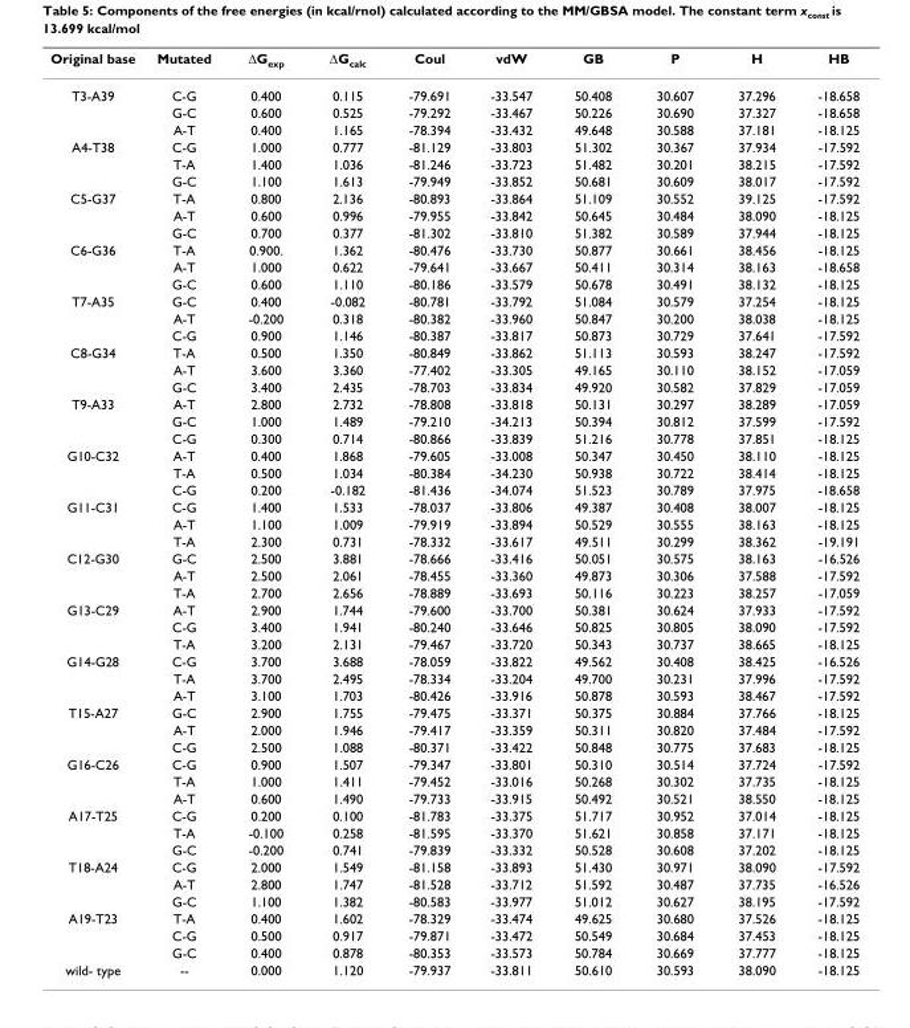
<table><thead><tr><td>Original base</td><td>Mutated</td><td>ΔG<sub>exp</sub></td><td>ΔG<sub>calc</sub></td><td>Coul</td><td>vdW</td><td>GB</td><td>P</td><td>H</td><td>HB</td></tr></thead><tbody><tr><td rowspan="3">T3-A39</td><td>C-G</td><td>0.400</td><td>0.115</td><td>-79.691</td><td>-33.547</td><td>50.408</td><td>30.607</td><td>37.296</td><td>-18.658</td></tr><tr><td>G-C</td><td>0.600</td><td>0.525</td><td>-79.292</td><td>-33.467</td><td>50.226</td><td>30.690</td><td>37.327</td><td>-18.658</td></tr><tr><td>A-T</td><td>0.400</td><td>1.165</td><td>-78.394</td><td>-33.432</td><td>49.648</td><td>30.588</td><td>37.181</td><td>-18.125</td></tr><tr><td rowspan="3">A4-T38</td><td>C-G</td><td>1.000</td><td>0.777</td><td>-81.129</td><td>-33.803</td><td>51.302</td><td>30.367</td><td>37.934</td><td>-17.592</td></tr><tr><td>T-A</td><td>1.400</td><td>1.036</td><td>-81.246</td><td>-33.723</td><td>51.482</td><td>30.201</td><td>38.215</td><td>-17.592</td></tr><tr><td>G-C</td><td>1.100</td><td>1.613</td><td>-79.949</td><td>-33.852</td><td>50.681</td><td>30.609</td><td>38.017</td><td>-17.592</td></tr><tr><td rowspan="3">C5-G37</td><td>T-A</td><td>0.800</td><td>2.136</td><td>-80.893</td><td>-33.864</td><td>51.109</td><td>30.552</td><td>39.125</td><td>-17.592</td></tr><tr><td>A-T</td><td>0.600</td><td>0.996</td><td>-79.955</td><td>-33.842</td><td>50.645</td><td>30.484</td><td>38.090</td><td>-18.125</td></tr><tr><td>G-C</td><td>0.700</td><td>0.377</td><td>-81.302</td><td>-33.810</td><td>51.382</td><td>30.589</td><td>37.944</td><td>-18.125</td></tr><tr><td rowspan="3">C6-G36</td><td>T-A</td><td>0.900.</td><td>1.362</td><td>-80.476</td><td>-33.730</td><td>50.877</td><td>30.661</td><td>38.456</td><td>-18.125</td></tr><tr><td>A-T</td><td>1.000</td><td>0.622</td><td>-79.641</td><td>-33.667</td><td>50.411</td><td>30.314</td><td>38.163</td><td>-18.658</td></tr><tr><td>G-C</td><td>0.600</td><td>1.110</td><td>-80.186</td><td>-33.579</td><td>50.678</td><td>30.491</td><td>38.132</td><td>-18.125</td></tr><tr><td rowspan="3">T7-A35</td><td>G-C</td><td>0.400</td><td>-0.082</td><td>-80.781</td><td>-33.792</td><td>51.084</td><td>30.579</td><td>37.254</td><td>-18.125</td></tr><tr><td>A-T</td><td>-0.200</td><td>0.318</td><td>-80.382</td><td>-33.960</td><td>50.847</td><td>30.200</td><td>38.038</td><td>-18.125</td></tr><tr><td>C-G</td><td>0.900</td><td>1.146</td><td>-80.387</td><td>-33.817</td><td>50.873</td><td>30.729</td><td>37.641</td><td>-17.592</td></tr><tr><td rowspan="3">C8-G34</td><td>T-A</td><td>0.500</td><td>1.350</td><td>-80.849</td><td>-33.862</td><td>51.113</td><td>30.593</td><td>38.247</td><td>-17.592</td></tr><tr><td>A-T</td><td>3.600</td><td>3.360</td><td>-77.402</td><td>-33.305</td><td>49.165</td><td>30.110</td><td>38.152</td><td>-17.059</td></tr><tr><td>G-C</td><td>3.400</td><td>2.435</td><td>-78.703</td><td>-33.834</td><td>49.920</td><td>30.582</td><td>37.829</td><td>-17.059</td></tr><tr><td rowspan="3">T9-A33</td><td>A-T</td><td>2.800</td><td>2.732</td><td>-78.808</td><td>-33.818</td><td>50.131</td><td>30.297</td><td>38.289</td><td>-17.059</td></tr><tr><td>G-C</td><td>1.000</td><td>1.489</td><td>-79.210</td><td>-34.213</td><td>50.394</td><td>30.812</td><td>37.599</td><td>-17.592</td></tr><tr><td>C-G</td><td>0.300</td><td>0.714</td><td>-80.866</td><td>-33.839</td><td>51.216</td><td>30.778</td><td>37.851</td><td>-18.125</td></tr><tr><td rowspan="3">G10-C32</td><td>A-T</td><td>0.400</td><td>1.868</td><td>-79.605</td><td>-33.008</td><td>50.347</td><td>30.450</td><td>38.110</td><td>-18.125</td></tr><tr><td>T-A</td><td>0.500</td><td>1.034</td><td>-80.384</td><td>-34.230</td><td>50.938</td><td>30.722</td><td>38.414</td><td>-18.125</td></tr><tr><td>C-G</td><td>0.200</td><td>-0.182</td><td>-81.436</td><td>-34.074</td><td>51.523</td><td>30.789</td><td>37.975</td><td>-18.658</td></tr><tr><td rowspan="3">G11-C31</td><td>C-G</td><td>1.400</td><td>1.533</td><td>-78.037</td><td>-33.806</td><td>49.387</td><td>30.408</td><td>38.007</td><td>-18.125</td></tr><tr><td>A-T</td><td>1.100</td><td>1.009</td><td>-79.919</td><td>-33.894</td><td>50.529</td><td>30.555</td><td>38.163</td><td>-18.125</td></tr><tr><td>T-A</td><td>2.300</td><td>0.731</td><td>-78.332</td><td>-33.617</td><td>49.511</td><td>30.299</td><td>38.362</td><td>-19.191</td></tr><tr><td rowspan="3">C12-G30</td><td>G-C</td><td>2.500</td><td>3.881</td><td>-78.666</td><td>-33.416</td><td>50.051</td><td>30.575</td><td>38.163</td><td>-16.526</td></tr><tr><td>A-T</td><td>2.500</td><td>2.061</td><td>-78.455</td><td>-33.360</td><td>49.873</td><td>30.306</td><td>37.588</td><td>-17.592</td></tr><tr><td>T-A</td><td>2.700</td><td>2.656</td><td>-78.889</td><td>-33.693</td><td>50.116</td><td>30.223</td><td>38.257</td><td>-17.059</td></tr><tr><td rowspan="3">G13-C29</td><td>A-T</td><td>2.900</td><td>1.744</td><td>-79.600</td><td>-33.700</td><td>50.381</td><td>30.624</td><td>37.933</td><td>-17.592</td></tr><tr><td>C-G</td><td>3.400</td><td>1.941</td><td>-80.240</td><td>-33.646</td><td>50.825</td><td>30.805</td><td>38.090</td><td>-17.592</td></tr><tr><td>T-A</td><td>3.200</td><td>2.131</td><td>-79.467</td><td>-33.720</td><td>50.343</td><td>30.737</td><td>38.665</td><td>-18.125</td></tr><tr><td rowspan="3">G14-G28</td><td>C-G</td><td>3.700</td><td>3.688</td><td>-78.059</td><td>-33.822</td><td>49.562</td><td>30.408</td><td>38.425</td><td>-16.526</td></tr><tr><td>T-A</td><td>3.700</td><td>2.495</td><td>-78.334</td><td>-33.204</td><td>49.700</td><td>30.231</td><td>37.996</td><td>-17.592</td></tr><tr><td>A-T</td><td>3.100</td><td>1.703</td><td>-80.426</td><td>-33.916</td><td>50.878</td><td>30.593</td><td>38.467</td><td>-17.592</td></tr><tr><td rowspan="3">T15-A27</td><td>G-C</td><td>2.900</td><td>1.755</td><td>-79.475</td><td>-33.371</td><td>50.375</td><td>30.884</td><td>37.766</td><td>-18.125</td></tr><tr><td>A-T</td><td>2.000</td><td>1.946</td><td>-79.417</td><td>-33.359</td><td>50.311</td><td>30.820</td><td>37.484</td><td>-17.592</td></tr><tr><td>C-G</td><td>2.500</td><td>1.088</td><td>-80.371</td><td>-33.422</td><td>50.848</td><td>30.775</td><td>37.683</td><td>-18.125</td></tr><tr><td rowspan="3">G16-C26</td><td>C-G</td><td>0.900</td><td>1.507</td><td>-79.347</td><td>-33.801</td><td>50.310</td><td>30.514</td><td>37.724</td><td>-17.592</td></tr><tr><td>T-A</td><td>1.000</td><td>1.411</td><td>-79.452</td><td>-33.016</td><td>50.268</td><td>30.302</td><td>37.735</td><td>-18.125</td></tr><tr><td>A-T</td><td>0.600</td><td>1.490</td><td>-79.733</td><td>-33.915</td><td>50.492</td><td>30.521</td><td>38.550</td><td>-18.125</td></tr><tr><td rowspan="3">A17-T25</td><td>C-G</td><td>0.200</td><td>0.100</td><td>-81.783</td><td>-33.375</td><td>51.717</td><td>30.952</td><td>37.014</td><td>-18.125</td></tr><tr><td>T-A</td><td>-0.100</td><td>0.258</td><td>-81.595</td><td>-33.370</td><td>51.621</td><td>30.858</td><td>37.171</td><td>-18.125</td></tr><tr><td>G-C</td><td>-0.200</td><td>0.741</td><td>-79.839</td><td>-33.332</td><td>50.528</td><td>30.608</td><td>37.202</td><td>-18.125</td></tr><tr><td rowspan="3">T18-A24</td><td>C-G</td><td>2.000</td><td>1.549</td><td>-81.158</td><td>-33.893</td><td>51.430</td><td>30.971</td><td>38.090</td><td>-17.592</td></tr><tr><td>A-T</td><td>2.800</td><td>1.747</td><td>-81.528</td><td>-33.712</td><td>51.592</td><td>30.487</td><td>37.735</td><td>-16.526</td></tr><tr><td>G-C</td><td>1.100</td><td>1.382</td><td>-80.583</td><td>-33.977</td><td>51.012</td><td>30.627</td><td>38.195</td><td>-17.592</td></tr><tr><td rowspan="3">A19-T23</td><td>T-A</td><td>0.400</td><td>1.602</td><td>-78.329</td><td>-33.474</td><td>49.625</td><td>30.680</td><td>37.526</td><td>-18.125</td></tr><tr><td>C-G</td><td>0.500</td><td>0.917</td><td>-79.871</td><td>-33.472</td><td>50.549</td><td>30.684</td><td>37.453</td><td>-18.125</td></tr><tr><td>G-C</td><td>0.400</td><td>0.878</td><td>-80.353</td><td>-33.573</td><td>50.784</td><td>30.669</td><td>37.777</td><td>-18.125</td></tr><tr><td>wild- type</td><td>--</td><td>0.000</td><td>1.120</td><td>-79.937</td><td>-33.811</td><td>50.610</td><td>30.593</td><td>38.090</td><td>-18.125</td></tr></tbody></table>